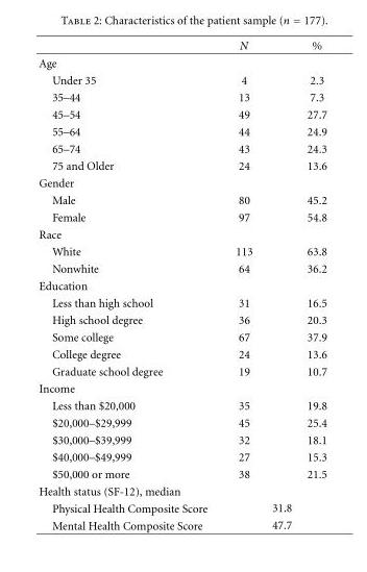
<table><thead><tr><td></td><td>N</td><td>%</td></tr></thead><tbody><tr><td colspan="3">Age</td></tr><tr><td>Under 35</td><td>4</td><td>2.3</td></tr><tr><td>35–44</td><td>13</td><td>7.3</td></tr><tr><td>45–54</td><td>49</td><td>27.7</td></tr><tr><td>55–64</td><td>44</td><td>24.9</td></tr><tr><td>65–74</td><td>43</td><td>24.3</td></tr><tr><td>75 and Older</td><td>24</td><td>13.6</td></tr><tr><td colspan="3">Gender</td></tr><tr><td>Male</td><td>80</td><td>45.2</td></tr><tr><td>Female</td><td>97</td><td>54.8</td></tr><tr><td colspan="3">Race</td></tr><tr><td>White</td><td>113</td><td>63.8</td></tr><tr><td>Nonwhite</td><td>64</td><td>36.2</td></tr><tr><td colspan="3">Education</td></tr><tr><td>Less than high school</td><td>31</td><td>16.5</td></tr><tr><td>High school degree</td><td>36</td><td>20.3</td></tr><tr><td>Some college</td><td>67</td><td>37.9</td></tr><tr><td>College degree</td><td>24</td><td>13.6</td></tr><tr><td>Graduate school degree</td><td>19</td><td>10.7</td></tr><tr><td colspan="3">Income</td></tr><tr><td>Less than $20,000</td><td>35</td><td>19.8</td></tr><tr><td>$20,000–$29,999</td><td>45</td><td>25.4</td></tr><tr><td>$30,000–$39,999</td><td>32</td><td>18.1</td></tr><tr><td>$40,000–$49,999</td><td>27</td><td>15.3</td></tr><tr><td>$50,000 or more</td><td>38</td><td>21.5</td></tr><tr><td colspan="3">Health status (SF-12), median</td></tr><tr><td>Physical Health Composite Score</td><td colspan="2">31.8</td></tr><tr><td>Mental Health Composite Score</td><td colspan="2">47.7</td></tr></tbody></table>